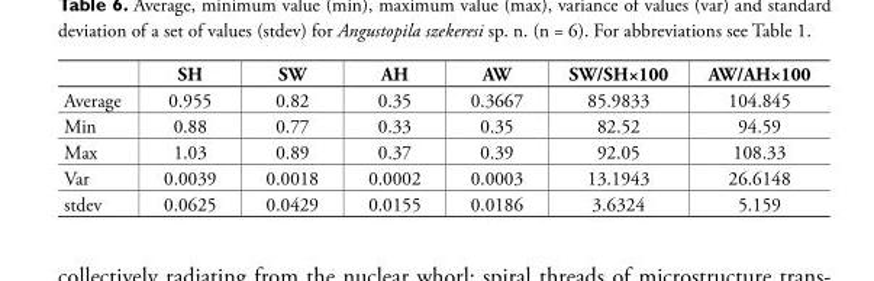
<table><thead><tr><td></td><td>SH</td><td>SW</td><td>AH</td><td>AW</td><td>SW/SH×100</td><td>AW/AH×100</td></tr></thead><tbody><tr><td>Average</td><td>0.955</td><td>0.82</td><td>0.35</td><td>0.3667</td><td>85.9833</td><td>104.845</td></tr><tr><td>Min</td><td>0.88</td><td>0.77</td><td>0.33</td><td>0.35</td><td>82.52</td><td>94.59</td></tr><tr><td>Max</td><td>1.03</td><td>0.89</td><td>0.37</td><td>0.39</td><td>92.05</td><td>108.33</td></tr><tr><td>Var</td><td>0.0039</td><td>0.0018</td><td>0.0002</td><td>0.0003</td><td>13.1943</td><td>26.6148</td></tr><tr><td>stdev</td><td>0.0625</td><td>0.0429</td><td>0.0155</td><td>0.0186</td><td>3.6324</td><td>5.159</td></tr></tbody></table>